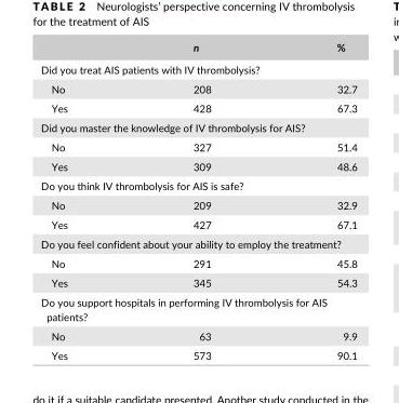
<table><thead><tr><td></td><td>n</td><td>%</td></tr></thead><tbody><tr><td colspan="3">Did you treat AIS patients with IV thrombolysis?</td></tr><tr><td>No</td><td>208</td><td>32.7</td></tr><tr><td>Yes</td><td>428</td><td>67.3</td></tr><tr><td colspan="3">Did you master the knowledge of IV thrombolysis for AIS?</td></tr><tr><td>No</td><td>327</td><td>51.4</td></tr><tr><td>Yes</td><td>309</td><td>48.6</td></tr><tr><td colspan="3">Do you think IV thrombolysis for AIS is safe?</td></tr><tr><td>No</td><td>209</td><td>32.9</td></tr><tr><td>Yes</td><td>427</td><td>67.1</td></tr><tr><td colspan="3">Do you feel confident about your ability to employ the treatment?</td></tr><tr><td>No</td><td>291</td><td>45.8</td></tr><tr><td>Yes</td><td>345</td><td>54.3</td></tr><tr><td colspan="3">Do you support hospitals in performing IV thrombolysis for AIS patients?</td></tr><tr><td>No</td><td>63</td><td>9.9</td></tr><tr><td>Yes</td><td>573</td><td>90.1</td></tr></tbody></table>